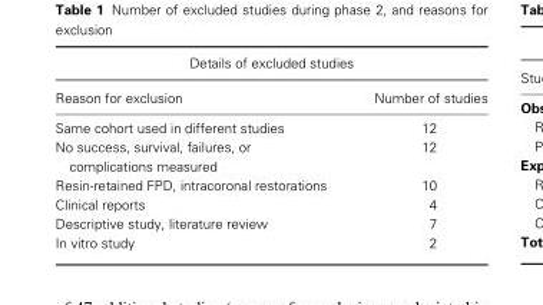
<table><thead><tr><td colspan="2">Details of excluded studies</td></tr><tr><td>Reason for exclusion</td><td>Number of studies</td></tr></thead><tbody><tr><td>Same cohort used in different studies</td><td>12</td></tr><tr><td>No success, survival, failures, or</td><td>12</td></tr><tr><td colspan="2">complications measured</td></tr><tr><td>Resin-retained FPD, intracoronal restorations</td><td>10</td></tr><tr><td>Clinical reports</td><td>4</td></tr><tr><td>Descriptive study, literature review</td><td>7</td></tr><tr><td>In vitro study</td><td>2</td></tr></tbody></table>